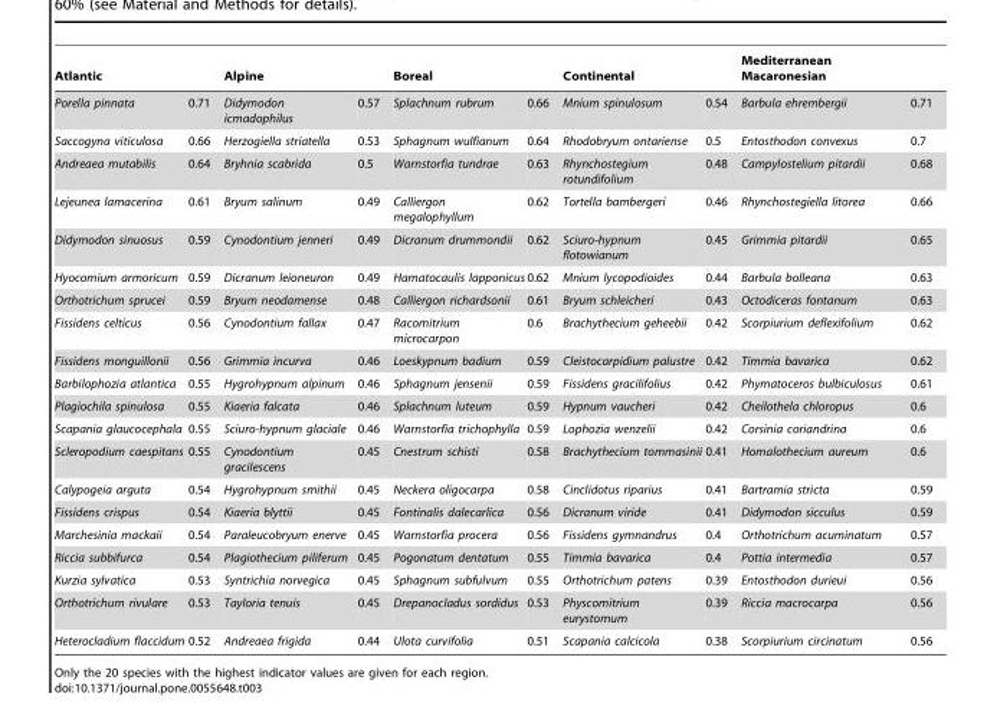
<table><thead><tr><td colspan="2">Atlantic</td><td colspan="2">Alpine</td><td colspan="2">Boreal</td><td colspan="2">Continental</td><td colspan="2">Mediterranean Macaronesian</td></tr><tr><td>Porella pinnata</td><td>0.71</td><td>Didymodon icmadophilus</td><td>0.57</td><td>Splachnum rubrum</td><td>0.66</td><td>Mnium spinulosum</td><td>0.54</td><td>Barbula ehrembergii</td><td>0.71</td></tr></thead><tbody><tr><td>Saccogyna viticulosa</td><td>0.66</td><td>Herzogiella striatella</td><td>0.53</td><td>Sphagnum wulfianum</td><td>0.64</td><td>Rhodobryum ontariense</td><td>0.5</td><td>Entosthodon convexus</td><td>0.7</td></tr><tr><td>Andreaea mutabilis</td><td>0.64</td><td>Bryhnia scabrida</td><td>0.5</td><td>Warnstorfia tundrae</td><td>0.63</td><td>Rhynchostegium rotundifolium</td><td>0.48</td><td>Campylostelium pitardii</td><td>0.68</td></tr><tr><td>Lejeunea lamacerina</td><td>0.61</td><td>Bryum salinum</td><td>0.49</td><td>Calliergon megalophyllum</td><td>0.62</td><td>Tortella bambergeri</td><td>0.46</td><td>Rhynchostegiella litorea</td><td>0.66</td></tr><tr><td>Didymodon sinuosus</td><td>0.59</td><td>Cynodontium jenneri</td><td>0.49</td><td>Dicranum drummondii</td><td>0.62</td><td>Sciuro-hypnum flotowianum</td><td>0.45</td><td>Grimmia pitardii</td><td>0.65</td></tr><tr><td>Hyocomium armoricum</td><td>0.59</td><td>Dicranum leioneuron</td><td>0.49</td><td>Hamatocaulis lapponicus</td><td>0.62</td><td>Mnium lycopodioides</td><td>0.44</td><td>Barbula bolleana</td><td>0.63</td></tr><tr><td>Orthotrichum sprucei</td><td>0.59</td><td>Bryum neodamense</td><td>0.48</td><td>Calliergon richardsonii</td><td>0.61</td><td>Bryum schleicheri</td><td>0.43</td><td>Octodiceras fontanum</td><td>0.63</td></tr><tr><td>Fissidens celticus</td><td>0.56</td><td>Cynodontium fallax</td><td>0.47</td><td>Racomitrium microcarpon</td><td>0.6</td><td>Brachythecium geheebii</td><td>0.42</td><td>Scorpiurium deflexifolium</td><td>0.62</td></tr><tr><td>Fissidens monguillonii</td><td>0.56</td><td>Grimmia incurva</td><td>0.46</td><td>Loeskypnum badium</td><td>0.59</td><td>Cleistocarpidium palustre</td><td>0.42</td><td>Timmia bavarica</td><td>0.62</td></tr><tr><td>Barbilophozia atlantica</td><td>0.55</td><td>Hygrohypnum alpinum</td><td>0.46</td><td>Sphagnum jensenii</td><td>0.59</td><td>Fissidens gracilifolius</td><td>0.42</td><td>Phymatoceros bulbiculosus</td><td>0.61</td></tr><tr><td>Plagiochila spinulosa</td><td>0.55</td><td>Kiaeria falcata</td><td>0.46</td><td>Splachnum luteum</td><td>0.59</td><td>Hypnum vaucheri</td><td>0.42</td><td>Cheilothela chloropus</td><td>0.6</td></tr><tr><td>Scapania glaucocephala</td><td>0.55</td><td>Sciuro-hypnum glaciale</td><td>0.46</td><td>Warnstorfia trichophylla</td><td>0.59</td><td>Lophozia wenzelii</td><td>0.42</td><td>Corsinia coriandrina</td><td>0.6</td></tr><tr><td>Scleropodium caespitans</td><td>0.55</td><td>Cynodontium gracilescens</td><td>0.45</td><td>Cnestrum schisti</td><td>0.58</td><td>Brachythecium tommasinii</td><td>0.41</td><td>Homalothecium aureum</td><td>0.6</td></tr><tr><td>Calypogeia arguta</td><td>0.54</td><td>Hygrohypnum smithii</td><td>0.45</td><td>Neckera oligocarpa</td><td>0.58</td><td>Cinclidotus riparius</td><td>0.41</td><td>Bartramia stricta</td><td>0.59</td></tr><tr><td>Fissidens crispus</td><td>0.54</td><td>Kiaeria blyttii</td><td>0.45</td><td>Fontinalis dalecarlica</td><td>0.56</td><td>Dicranum viride</td><td>0.41</td><td>Didymodon sicculus</td><td>0.59</td></tr><tr><td>Marchesinia mackaii</td><td>0.54</td><td>Paraleucobryum enerve</td><td>0.45</td><td>Warnstorfia procera</td><td>0.56</td><td>Fissidens gymnandrus</td><td>0.4</td><td>Orthotrichum acuminatum</td><td>0.57</td></tr><tr><td>Riccia subbifurca</td><td>0.54</td><td>Plagiothecium piliferum</td><td>0.45</td><td>Pogonatum dentatum</td><td>0.55</td><td>Timmia bavarica</td><td>0.4</td><td>Pottia intermedia</td><td>0.57</td></tr><tr><td>Kurzia sylvatica</td><td>0.53</td><td>Syntrichia norvegica</td><td>0.45</td><td>Sphagnum subfulvum</td><td>0.55</td><td>Orthotrichum patens</td><td>0.39</td><td>Entosthodon durieui</td><td>0.56</td></tr><tr><td>Orthotrichum rivulare</td><td>0.53</td><td>Tayloria tenuis</td><td>0.45</td><td>Drepanocladus sordidus</td><td>0.53</td><td>Physcomitrium eurystomum</td><td>0.39</td><td>Riccia macrocarpa</td><td>0.56</td></tr><tr><td>Heterocladium flaccidum</td><td>0.52</td><td>Andreaea frigida</td><td>0.44</td><td>Ulota curvifolia</td><td>0.51</td><td>Scapania calcicola</td><td>0.38</td><td>Scorpiurium circinatum</td><td>0.56</td></tr></tbody></table>